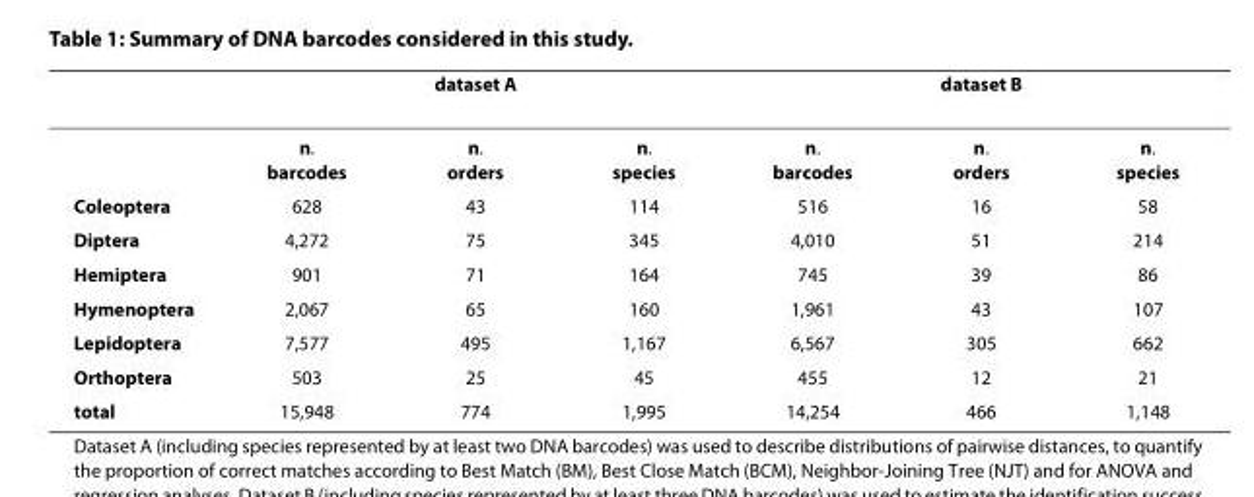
<table><thead><tr><td></td><td></td><td>dataset A</td><td></td><td></td><td>dataset B</td><td></td></tr></thead><tbody><tr><td></td><td>n. barcodes</td><td>n. orders</td><td>n. species</td><td>n. barcodes</td><td>n. orders</td><td>n. species</td></tr><tr><td>Coleoptera</td><td>628</td><td>43</td><td>114</td><td>516</td><td>16</td><td>58</td></tr><tr><td>Diptera</td><td>4,272</td><td>75</td><td>345</td><td>4,010</td><td>51</td><td>214</td></tr><tr><td>Hemiptera</td><td>901</td><td>71</td><td>164</td><td>745</td><td>39</td><td>86</td></tr><tr><td>Hymenoptera</td><td>2,067</td><td>65</td><td>160</td><td>1,961</td><td>43</td><td>107</td></tr><tr><td>Lepidoptera</td><td>7,577</td><td>495</td><td>1,167</td><td>6,567</td><td>305</td><td>662</td></tr><tr><td>Orthoptera</td><td>503</td><td>25</td><td>45</td><td>455</td><td>12</td><td>21</td></tr><tr><td>total</td><td>15,948</td><td>774</td><td>1,995</td><td>14,254</td><td>466</td><td>1,148</td></tr></tbody></table>